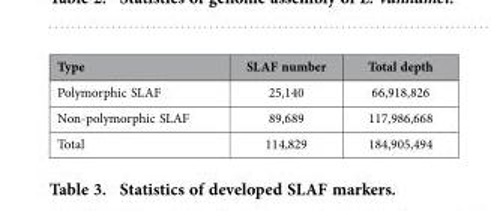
<table><thead><tr><td>Type</td><td>SLAF number</td><td>Total depth</td></tr></thead><tbody><tr><td>Polymorphic SLAF</td><td>25,140</td><td>66,918,826</td></tr><tr><td>Non-polymorphic SLAF</td><td>89,689</td><td>117,986,668</td></tr><tr><td>Total</td><td>114,829</td><td>184,905,494</td></tr></tbody></table>